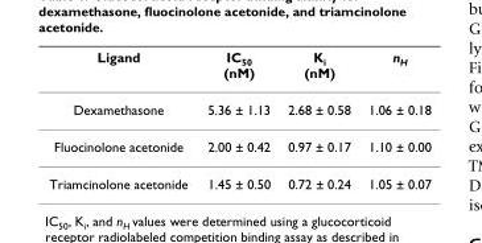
<table><thead><tr><td>Ligand</td><td>IC<sub>50</sub> (nM)</td><td>K<sub>i</sub> (nM)</td><td>n<sub>H</sub></td></tr></thead><tbody><tr><td>Dexamethasone</td><td>5.36 ± 1.13</td><td>2.68 ± 0.58</td><td>1.06 ± 0.18</td></tr><tr><td>Fluocinolone acetonide</td><td>2.00 ± 0.42</td><td>0.97 ± 0.17</td><td>1.10 ± 0.00</td></tr><tr><td>Triamcinolone acetonide</td><td>1.45 ± 0.50</td><td>0.72 ± 0.24</td><td>1.05 ± 0.07</td></tr></tbody></table>